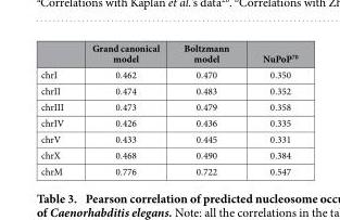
<table><thead><tr><td></td><td>Grand canonical model</td><td>Boltzmann model</td><td>NuPoP<sup>70</sup></td></tr></thead><tbody><tr><td>chrI</td><td>0.462</td><td>0.470</td><td>0.350</td></tr><tr><td>chrII</td><td>0.474</td><td>0.483</td><td>0.352</td></tr><tr><td>chrIII</td><td>0.473</td><td>0.479</td><td>0.358</td></tr><tr><td>chrIV</td><td>0.426</td><td>0.436</td><td>0.335</td></tr><tr><td>chrV</td><td>0.433</td><td>0.445</td><td>0.331</td></tr><tr><td>chrX</td><td>0.468</td><td>0.490</td><td>0.384</td></tr><tr><td>chrM</td><td>0.776</td><td>0.722</td><td>0.547</td></tr></tbody></table>